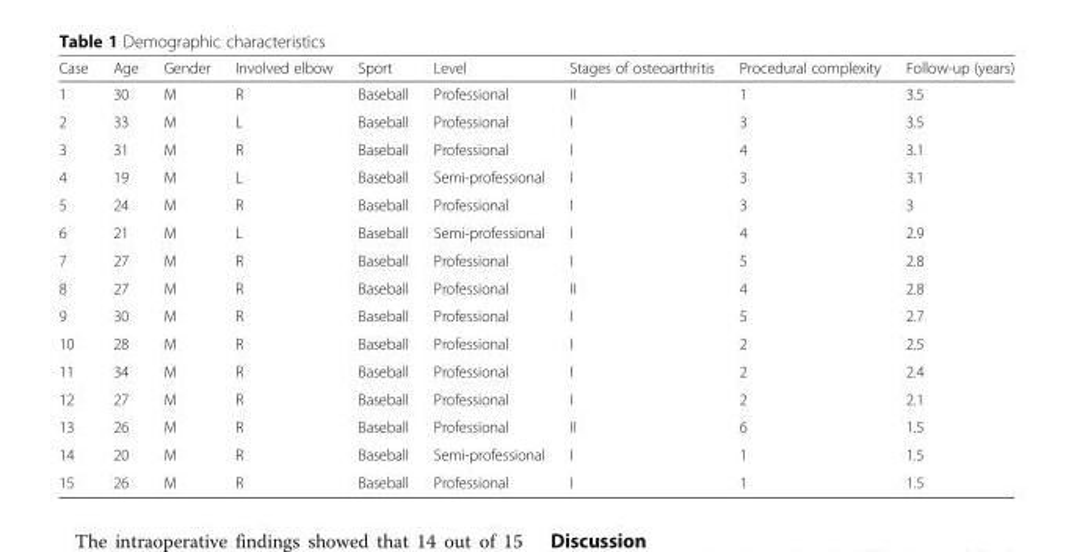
<table><thead><tr><td>Case</td><td>Age</td><td>Gender</td><td>Involved elbow</td><td>Sport</td><td>Level</td><td>Stages of osteoarthritis</td><td>Procedural complexity</td><td>Follow-up (years)</td></tr></thead><tbody><tr><td>1</td><td>30</td><td>M</td><td>R</td><td>Baseball</td><td>Professional</td><td>II</td><td>1</td><td>3.5</td></tr><tr><td>2</td><td>33</td><td>M</td><td>L</td><td>Baseball</td><td>Professional</td><td>I</td><td>3</td><td>3.5</td></tr><tr><td>3</td><td>31</td><td>M</td><td>R</td><td>Baseball</td><td>Professional</td><td>I</td><td>4</td><td>3.1</td></tr><tr><td>4</td><td>19</td><td>M</td><td>L</td><td>Baseball</td><td>Semi-professional</td><td>I</td><td>3</td><td>3.1</td></tr><tr><td>5</td><td>24</td><td>M</td><td>R</td><td>Baseball</td><td>Professional</td><td>I</td><td>3</td><td>3</td></tr><tr><td>6</td><td>21</td><td>M</td><td>L</td><td>Baseball</td><td>Semi-professional</td><td>I</td><td>4</td><td>2.9</td></tr><tr><td>7</td><td>27</td><td>M</td><td>R</td><td>Baseball</td><td>Professional</td><td>I</td><td>5</td><td>2.8</td></tr><tr><td>8</td><td>27</td><td>M</td><td>R</td><td>Baseball</td><td>Professional</td><td>II</td><td>4</td><td>2.8</td></tr><tr><td>9</td><td>30</td><td>M</td><td>R</td><td>Baseball</td><td>Professional</td><td>I</td><td>5</td><td>2.7</td></tr><tr><td>10</td><td>28</td><td>M</td><td>R</td><td>Baseball</td><td>Professional</td><td>I</td><td>2</td><td>2.5</td></tr><tr><td>11</td><td>34</td><td>M</td><td>R</td><td>Baseball</td><td>Professional</td><td>I</td><td>2</td><td>2.4</td></tr><tr><td>12</td><td>27</td><td>M</td><td>R</td><td>Baseball</td><td>Professional</td><td>I</td><td>2</td><td>2.1</td></tr><tr><td>13</td><td>26</td><td>M</td><td>R</td><td>Baseball</td><td>Professional</td><td>II</td><td>6</td><td>1.5</td></tr><tr><td>14</td><td>20</td><td>M</td><td>R</td><td>Baseball</td><td>Semi-professional</td><td>I</td><td>1</td><td>1.5</td></tr><tr><td>15</td><td>26</td><td>M</td><td>R</td><td>Baseball</td><td>Professional</td><td>I</td><td>1</td><td>1.5</td></tr></tbody></table>